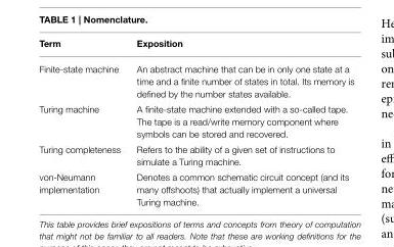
<table><thead><tr><td>Term</td><td>Exposition</td></tr></thead><tbody><tr><td>Finite-state machine</td><td>An abstract machine that can be in only one state at a time and a finite number of states in total. Its memory is defined by the number states available.</td></tr><tr><td>Turing machine</td><td>A finite-state machine extended with a so-called tape. The tape is a read/write memory component where symbols can be stored and recovered.</td></tr><tr><td>Turing completeness</td><td>Refers to the ability of a given set of instructions to simulate a Turing machine.</td></tr><tr><td>von-Neumann implementation</td><td>Denotes a common schematic circuit concept (and its many offshoots) that actually implement a universal Turing machine.</td></tr></tbody></table>